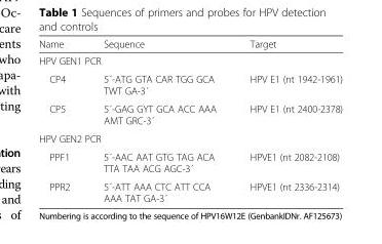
<table><thead><tr><td>Name</td><td>Sequence</td><td>Target</td></tr></thead><tbody><tr><td colspan="3">HPV GEN1 PCR</td></tr><tr><td>CP4</td><td>5´-ATG GTA CAR TGG GCA TWT GA-3´</td><td>HPV E1 (nt 1942-1961)</td></tr><tr><td>CP5</td><td>5´-GAG GYT GCA ACC AAA AMT GRC-3´</td><td>HPV E1 (nt 2400-2378)</td></tr><tr><td colspan="3">HPV GEN2 PCR</td></tr><tr><td>PPF1</td><td>5´-AAC AAT GTG TAG ACA TTA TAA ACG AGC-3´</td><td>HPVE1 (nt 2082-2108)</td></tr><tr><td>PPR2</td><td>5´-ATT AAA CTC ATT CCA AAA TAT GA-3´</td><td>HPVE1 (nt 2336-2314)</td></tr></tbody></table>